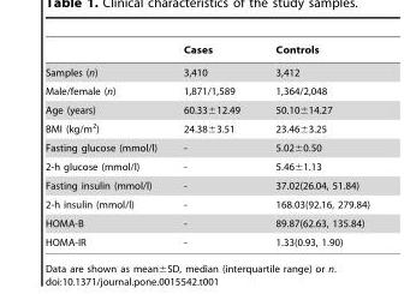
<table><thead><tr><td></td><td>Cases</td><td>Controls</td></tr></thead><tbody><tr><td>Samples (n)</td><td>3,410</td><td>3,412</td></tr><tr><td>Male/female (n)</td><td>1,871/1,589</td><td>1,364/2,048</td></tr><tr><td>Age (years)</td><td>60.33±12.49</td><td>50.10±14.27</td></tr><tr><td>BMI (kg/m<sup>2</sup>)</td><td>24.38±3.51</td><td>23.46±3.25</td></tr><tr><td>Fasting glucose (mmol/l)</td><td>-</td><td>5.02±0.50</td></tr><tr><td>2-h glucose (mmol/l)</td><td>-</td><td>5.46±1.13</td></tr><tr><td>Fasting insulin (mmol/l)</td><td>-</td><td>37.02(26.04, 51.84)</td></tr><tr><td>2-h insulin (mmol/l)</td><td>-</td><td>168.03(92.16, 279.84)</td></tr><tr><td>HOMA-B</td><td>-</td><td>89.87(62.63, 135.84)</td></tr><tr><td>HOMA-IR</td><td>-</td><td>1.33(0.93, 1.90)</td></tr></tbody></table>